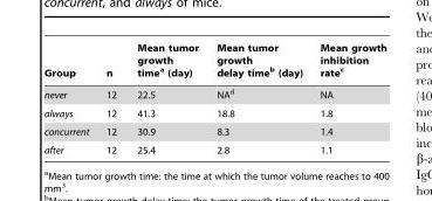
<table><thead><tr><td>Group</td><td>n</td><td>Mean tumor growth time<sup>a</sup> (day)</td><td>Mean tumor growth delay time<sup>b</sup> (day)</td><td>Mean growth inhibition rate<sup>c</sup></td></tr></thead><tbody><tr><td>never</td><td>12</td><td>22.5</td><td>NA<sup>d</sup></td><td>NA</td></tr><tr><td>always</td><td>12</td><td>41.3</td><td>18.8</td><td>1.8</td></tr><tr><td>concurrent</td><td>12</td><td>30.9</td><td>8.3</td><td>1.4</td></tr><tr><td>after</td><td>12</td><td>25.4</td><td>2.8</td><td>1.1</td></tr></tbody></table>